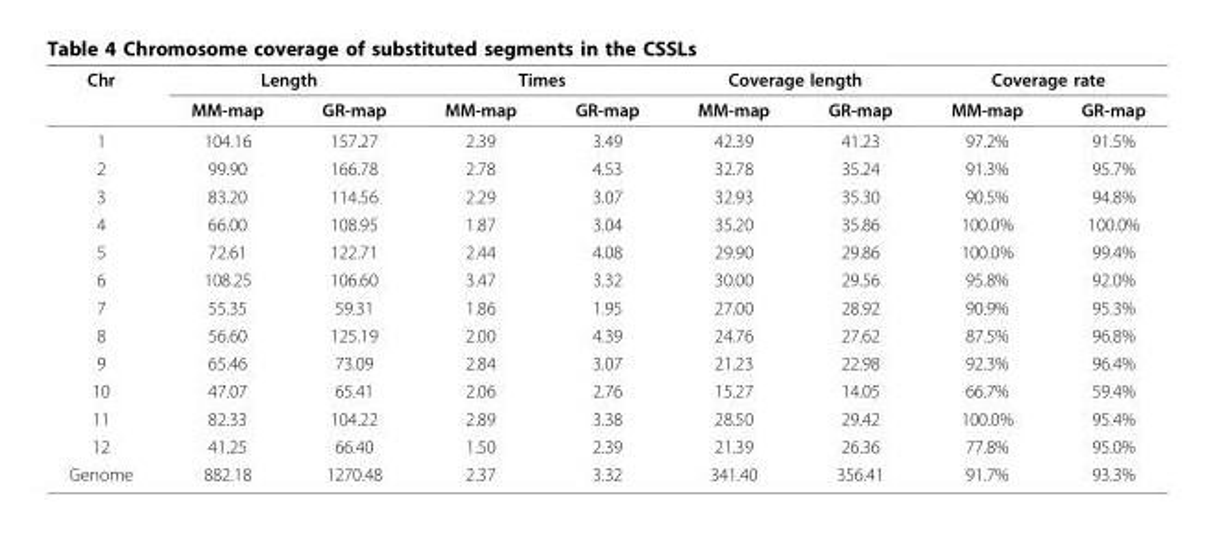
<table><thead><tr><td rowspan="2">Chr</td><td colspan="2">Length</td><td colspan="2">Times</td><td colspan="2">Coverage length</td><td colspan="2">Coverage rate</td></tr><tr><td>MM-map</td><td>GR-map</td><td>MM-map</td><td>GR-map</td><td>MM-map</td><td>GR-map</td><td>MM-map</td><td>GR-map</td></tr></thead><tbody><tr><td>1</td><td>104.16</td><td>157.27</td><td>2.39</td><td>3.49</td><td>42.39</td><td>41.23</td><td>97.2%</td><td>91.5%</td></tr><tr><td>2</td><td>99.90</td><td>166.78</td><td>2.78</td><td>4.53</td><td>32.78</td><td>35.24</td><td>91.3%</td><td>95.7%</td></tr><tr><td>3</td><td>83.20</td><td>114.56</td><td>2.29</td><td>3.07</td><td>32.93</td><td>35.30</td><td>90.5%</td><td>94.8%</td></tr><tr><td>4</td><td>66.00</td><td>108.95</td><td>1.87</td><td>3.04</td><td>35.20</td><td>35.86</td><td>100.0%</td><td>100.0%</td></tr><tr><td>5</td><td>72.61</td><td>122.71</td><td>2.44</td><td>4.08</td><td>29.90</td><td>29.86</td><td>100.0%</td><td>99.4%</td></tr><tr><td>6</td><td>108.25</td><td>106.60</td><td>3.47</td><td>3.32</td><td>30.00</td><td>29.56</td><td>95.8%</td><td>92.0%</td></tr><tr><td>7</td><td>55.35</td><td>59.31</td><td>1.86</td><td>1.95</td><td>27.00</td><td>28.92</td><td>90.9%</td><td>95.3%</td></tr><tr><td>8</td><td>56.60</td><td>125.19</td><td>2.00</td><td>4.39</td><td>24.76</td><td>27.62</td><td>87.5%</td><td>96.8%</td></tr><tr><td>9</td><td>65.46</td><td>73.09</td><td>2.84</td><td>3.07</td><td>21.23</td><td>22.98</td><td>92.3%</td><td>96.4%</td></tr><tr><td>10</td><td>47.07</td><td>65.41</td><td>2.06</td><td>2.76</td><td>15.27</td><td>14.05</td><td>66.7%</td><td>59.4%</td></tr><tr><td>11</td><td>82.33</td><td>104.22</td><td>2.89</td><td>3.38</td><td>28.50</td><td>29.42</td><td>100.0%</td><td>95.4%</td></tr><tr><td>12</td><td>41.25</td><td>66.40</td><td>1.50</td><td>2.39</td><td>21.39</td><td>26.36</td><td>77.8%</td><td>95.0%</td></tr><tr><td>Genome</td><td>882.18</td><td>1270.48</td><td>2.37</td><td>3.32</td><td>341.40</td><td>356.41</td><td>91.7%</td><td>93.3%</td></tr></tbody></table>